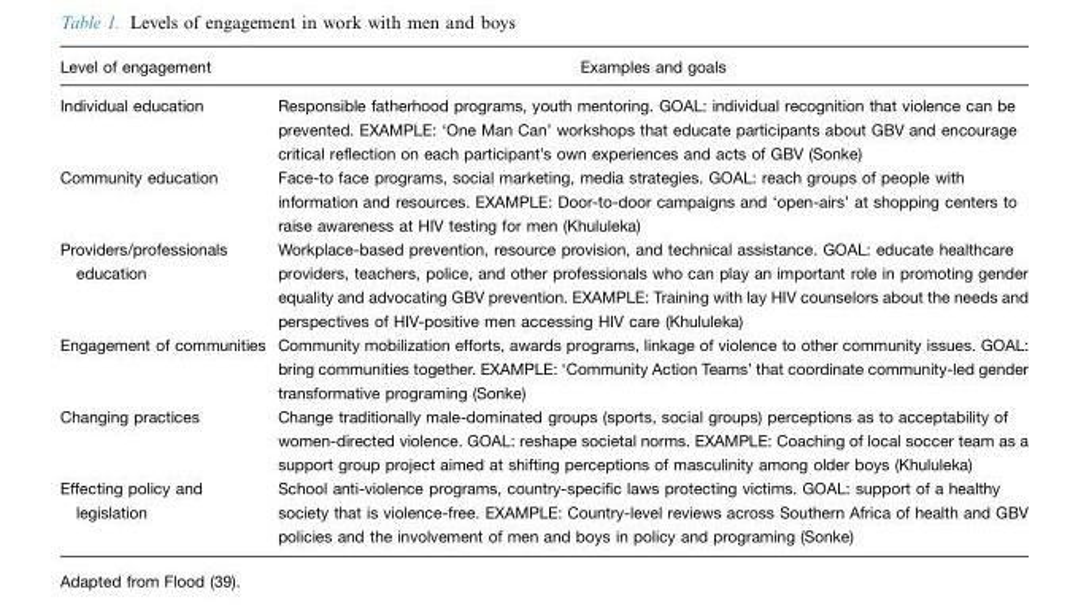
<table><thead><tr><td>Level of engagement</td><td>Examples and goals</td></tr></thead><tbody><tr><td>Individual education</td><td>Responsible fatherhood programs, youth mentoring. GOAL: individual recognition that violence can be prevented. EXAMPLE: ‘One Man Can’ workshops that educate participants about GBV and encourage critical reflection on each participant’s own experiences and acts of GBV (Sonke)</td></tr><tr><td>Community education</td><td>Face-to face programs, social marketing, media strategies. GOAL: reach groups of people with information and resources. EXAMPLE: Door-to-door campaigns and ‘open-airs’ at shopping centers to raise awareness at HIV testing for men (Khululeka)</td></tr><tr><td>Providers/professionals education</td><td>Workplace-based prevention, resource provision, and technical assistance. GOAL: educate healthcare providers, teachers, police, and other professionals who can play an important role in promoting gender equality and advocating GBV prevention. EXAMPLE: Training with lay HIV counselors about the needs and perspectives of HIV-positive men accessing HIV care (Khululeka)</td></tr><tr><td>Engagement of communities</td><td>Community mobilization efforts, awards programs, linkage of violence to other community issues. GOAL: bring communities together. EXAMPLE: ‘Community Action Teams’ that coordinate community-led gender transformative programing (Sonke)</td></tr><tr><td>Changing practices</td><td>Change traditionally male-dominated groups (sports, social groups) perceptions as to acceptability of women-directed violence. GOAL: reshape societal norms. EXAMPLE: Coaching of local soccer team as a support group project aimed at shifting perceptions of masculinity among older boys (Khululeka)</td></tr><tr><td>Effecting policy and legislation</td><td>School anti-violence programs, country-specific laws protecting victims. GOAL: support of a healthy society that is violence-free. EXAMPLE: Country-level reviews across Southern Africa of health and GBV policies and the involvement of men and boys in policy and programing (Sonke)</td></tr></tbody></table>